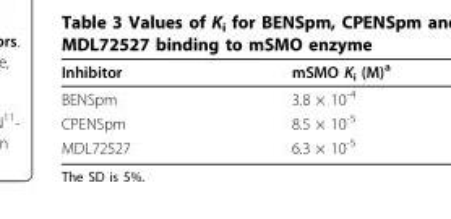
<table><thead><tr><td>Inhibitor</td><td>mSMO K<sub>i</sub> (M)<sup>a</sup></td></tr></thead><tbody><tr><td>BENSpm</td><td>3.8 × 10<sup>-4</sup></td></tr><tr><td>CPENSpm</td><td>8.5 × 10<sup>-5</sup></td></tr><tr><td>MDL72527</td><td>6.3 × 10<sup>-5</sup></td></tr></tbody></table>